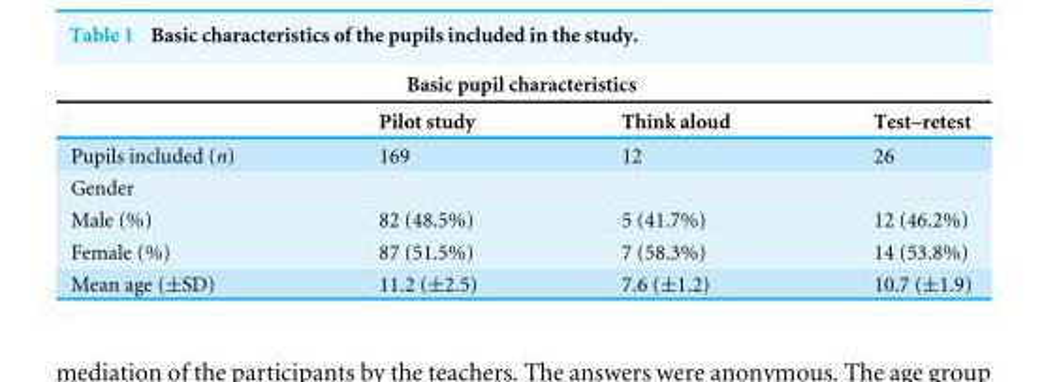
<table><thead><tr><td colspan="4">Basic pupil characteristics</td></tr><tr><td></td><td>Pilot study</td><td>Think aloud</td><td>Test–retest</td></tr></thead><tbody><tr><td>Pupils included (n)</td><td>169</td><td>12</td><td>26</td></tr><tr><td colspan="4">Gender</td></tr><tr><td>Male (%)</td><td>82 (48.5%)</td><td>5 (41.7%)</td><td>12 (46.2%)</td></tr><tr><td>Female (%)</td><td>87 (51.5%)</td><td>7 (58.3%)</td><td>14 (53.8%)</td></tr><tr><td>Mean age (±SD)</td><td>11.2 (±2.5)</td><td>7.6 (±1.2)</td><td>10.7 (±1.9)</td></tr></tbody></table>